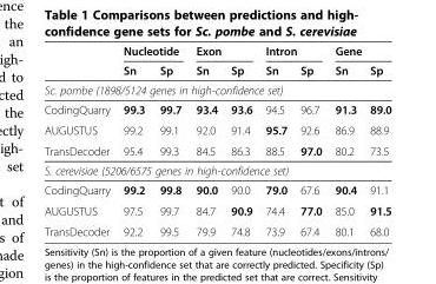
<table><thead><tr><td rowspan="2"></td><td colspan="2">Nucleotide</td><td colspan="2">Exon</td><td colspan="2">Intron</td><td colspan="2">Gene</td></tr><tr><td>Sn</td><td>Sp</td><td>Sn</td><td>Sp</td><td>Sn</td><td>Sp</td><td>Sn</td><td>Sp</td></tr></thead><tbody><tr><td colspan="9">Sc. pombe (1898/5124 genes in high-confidence set)</td></tr><tr><td>CodingQuarry</td><td>99.3</td><td>99.7</td><td>93.4</td><td>93.6</td><td>94.5</td><td>96.7</td><td>91.3</td><td>89.0</td></tr><tr><td>AUGUSTUS</td><td>99.2</td><td>99.1</td><td>92.0</td><td>91.4</td><td>95.7</td><td>92.6</td><td>86.9</td><td>88.9</td></tr><tr><td>TransDecoder</td><td>95.4</td><td>99.3</td><td>84.5</td><td>86.3</td><td>88.5</td><td>97.0</td><td>80.2</td><td>73.5</td></tr><tr><td colspan="9">S. cerevisiae (5206/6575 genes in high-confidence set)</td></tr><tr><td>CodingQuarry</td><td>99.2</td><td>99.8</td><td>90.0</td><td>90.0</td><td>79.0</td><td>67.6</td><td>90.4</td><td>91.1</td></tr><tr><td>AUGUSTUS</td><td>97.5</td><td>99.7</td><td>84.7</td><td>90.9</td><td>74.4</td><td>77.0</td><td>85.0</td><td>91.5</td></tr><tr><td>TransDecoder</td><td>92.2</td><td>99.5</td><td>79.9</td><td>74.8</td><td>73.9</td><td>67.4</td><td>80.1</td><td>68.0</td></tr></tbody></table>